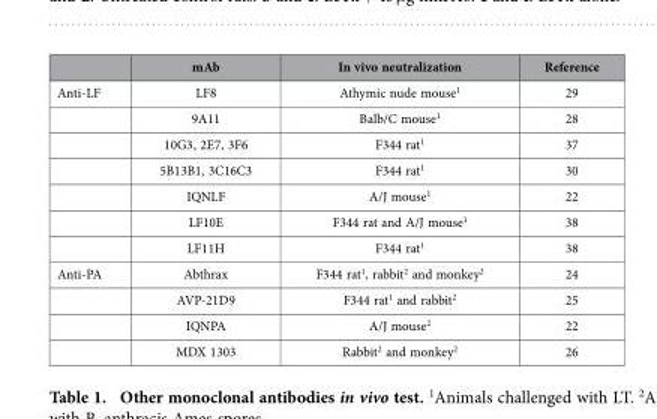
<table><thead><tr><td></td><td>mAb</td><td>In vivo neutralization</td><td>Reference</td></tr></thead><tbody><tr><td rowspan="7">Anti-LF</td><td>LF8</td><td>Athymic nude mouse<sup>1</sup></td><td>29</td></tr><tr><td>9A11</td><td>Balb/C mouse<sup>1</sup></td><td>28</td></tr><tr><td>10G3, 2E7, 3F6</td><td>F344 rat<sup>1</sup></td><td>37</td></tr><tr><td>5B13B1, 3C16C3</td><td>F344 rat<sup>1</sup></td><td>30</td></tr><tr><td>IQNLF</td><td>A/J mouse<sup>1</sup></td><td>22</td></tr><tr><td>LF10E</td><td>F344 rat and A/J mouse<sup>1</sup></td><td>38</td></tr><tr><td>LF11H</td><td>F344 rat<sup>1</sup></td><td>38</td></tr><tr><td rowspan="4">Anti-PA</td><td>Abthrax</td><td>F344 rat<sup>1</sup>, rabbit<sup>2</sup> and monkey<sup>2</sup></td><td>24</td></tr><tr><td>AVP-21D9</td><td>F344 rat<sup>1</sup> and rabbit<sup>2</sup></td><td>25</td></tr><tr><td>IQNPA</td><td>A/J mouse<sup>2</sup></td><td>22</td></tr><tr><td>MDX 1303</td><td>Rabbit<sup>2</sup> and monkey<sup>2</sup></td><td>26</td></tr></tbody></table>